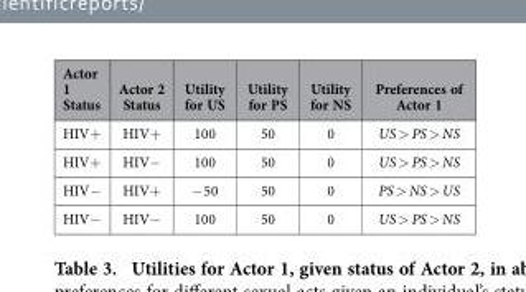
<table><thead><tr><td>Actor 1 Status</td><td>Actor 2 Status</td><td>Utility for US</td><td>Utility for PS</td><td>Utility for NS</td><td>Preferences of Actor 1</td></tr></thead><tbody><tr><td>HIV+</td><td>HIV+</td><td>100</td><td>50</td><td>0</td><td>US &gt; PS &gt; NS</td></tr><tr><td>HIV+</td><td>HIV−</td><td>100</td><td>50</td><td>0</td><td>US &gt; PS &gt; NS</td></tr><tr><td>HIV−</td><td>HIV+</td><td>− 50</td><td>50</td><td>0</td><td>PS &gt; NS &gt; US</td></tr><tr><td>HIV−</td><td>HIV−</td><td>100</td><td>50</td><td>0</td><td>US &gt; PS &gt; NS</td></tr></tbody></table>